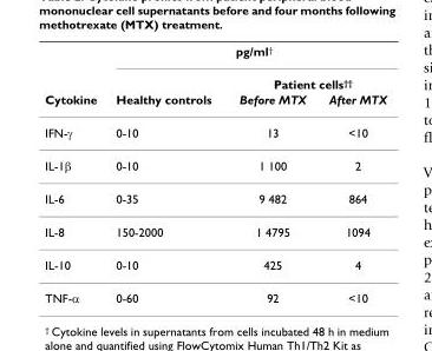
<table><thead><tr><td rowspan="3">Cytokine</td><td colspan="3">pg/ml<sup>†</sup></td></tr><tr><td rowspan="2">Healthy controls</td><td colspan="2">Patient cells<sup>††</sup></td></tr><tr><td>Before MTX</td><td>After MTX</td></tr></thead><tbody><tr><td>IFN-γ</td><td>0-10</td><td>13</td><td>&lt;10</td></tr><tr><td>IL-1β</td><td>0-10</td><td>1 100</td><td>2</td></tr><tr><td>IL-6</td><td>0-35</td><td>9 482</td><td>864</td></tr><tr><td>IL-8</td><td>150-2000</td><td>1 4795</td><td>1094</td></tr><tr><td>IL-10</td><td>0-10</td><td>425</td><td>4</td></tr><tr><td>TNF-α</td><td>0-60</td><td>92</td><td>&lt;10</td></tr></tbody></table>